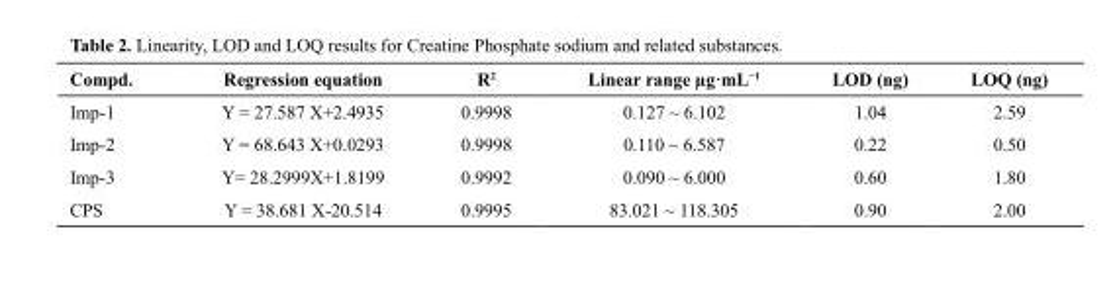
<table><thead><tr><td>Compd.</td><td>Regression equation</td><td>R<sup>2</sup></td><td>Linear range µg·mL<sup>−1</sup></td><td>LOD (ng)</td><td>LOQ (ng)</td></tr></thead><tbody><tr><td>Imp-1</td><td>Y = 27.587 X+2.4935</td><td>0.9998</td><td>0.127 ~ 6.102</td><td>1.04</td><td>2.59</td></tr><tr><td>Imp-2</td><td>Y = 68.643 X+0.0293</td><td>0.9998</td><td>0.110 ~ 6.587</td><td>0.22</td><td>0.50</td></tr><tr><td>Imp-3</td><td>Y= 28.2999X+1.8199</td><td>0.9992</td><td>0.090 ~ 6.000</td><td>0.60</td><td>1.80</td></tr><tr><td>CPS</td><td>Y = 38.681 X-20.514</td><td>0.9995</td><td>83.021 ~ 118.305</td><td>0.90</td><td>2.00</td></tr></tbody></table>